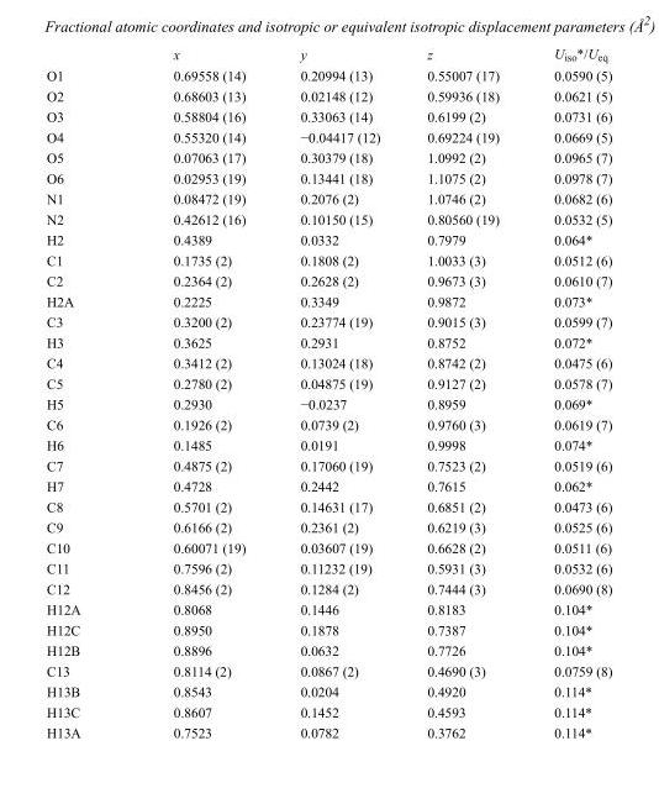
<table><thead><tr><td></td><td>x</td><td>y</td><td>z</td><td>U<sub>iso</sub>*/U<sub>eq</sub></td></tr></thead><tbody><tr><td>O1</td><td>0.69558 (14)</td><td>0.20994 (13)</td><td>0.55007 (17)</td><td>0.0590 (5)</td></tr><tr><td>O2</td><td>0.68603 (13)</td><td>0.02148 (12)</td><td>0.59936 (18)</td><td>0.0621 (5)</td></tr><tr><td>O3</td><td>0.58804 (16)</td><td>0.33063 (14)</td><td>0.6199 (2)</td><td>0.0731 (6)</td></tr><tr><td>O4</td><td>0.55320 (14)</td><td>−0.04417 (12)</td><td>0.69224 (19)</td><td>0.0669 (5)</td></tr><tr><td>O5</td><td>0.07063 (17)</td><td>0.30379 (18)</td><td>1.0992 (2)</td><td>0.0965 (7)</td></tr><tr><td>O6</td><td>0.02953 (19)</td><td>0.13441 (18)</td><td>1.1075 (2)</td><td>0.0978 (7)</td></tr><tr><td>N1</td><td>0.08472 (19)</td><td>0.2076 (2)</td><td>1.0746 (2)</td><td>0.0682 (6)</td></tr><tr><td>N2</td><td>0.42612 (16)</td><td>0.10150 (15)</td><td>0.80560 (19)</td><td>0.0532 (5)</td></tr><tr><td>H2</td><td>0.4389</td><td>0.0332</td><td>0.7979</td><td>0.064*</td></tr><tr><td>C1</td><td>0.1735 (2)</td><td>0.1808 (2)</td><td>1.0033 (3)</td><td>0.0512 (6)</td></tr><tr><td>C2</td><td>0.2364 (2)</td><td>0.2628 (2)</td><td>0.9673 (3)</td><td>0.0610 (7)</td></tr><tr><td>H2A</td><td>0.2225</td><td>0.3349</td><td>0.9872</td><td>0.073*</td></tr><tr><td>C3</td><td>0.3200 (2)</td><td>0.23774 (19)</td><td>0.9015 (3)</td><td>0.0599 (7)</td></tr><tr><td>H3</td><td>0.3625</td><td>0.2931</td><td>0.8752</td><td>0.072*</td></tr><tr><td>C4</td><td>0.3412 (2)</td><td>0.13024 (18)</td><td>0.8742 (2)</td><td>0.0475 (6)</td></tr><tr><td>C5</td><td>0.2780 (2)</td><td>0.04875 (19)</td><td>0.9127 (2)</td><td>0.0578 (7)</td></tr><tr><td>H5</td><td>0.2930</td><td>−0.0237</td><td>0.8959</td><td>0.069*</td></tr><tr><td>C6</td><td>0.1926 (2)</td><td>0.0739 (2)</td><td>0.9760 (3)</td><td>0.0619 (7)</td></tr><tr><td>H6</td><td>0.1485</td><td>0.0191</td><td>0.9998</td><td>0.074*</td></tr><tr><td>C7</td><td>0.4875 (2)</td><td>0.17060 (19)</td><td>0.7523 (2)</td><td>0.0519 (6)</td></tr><tr><td>H7</td><td>0.4728</td><td>0.2442</td><td>0.7615</td><td>0.062*</td></tr><tr><td>C8</td><td>0.5701 (2)</td><td>0.14631 (17)</td><td>0.6851 (2)</td><td>0.0473 (6)</td></tr><tr><td>C9</td><td>0.6166 (2)</td><td>0.2361 (2)</td><td>0.6219 (3)</td><td>0.0525 (6)</td></tr><tr><td>C10</td><td>0.60071 (19)</td><td>0.03607 (19)</td><td>0.6628 (2)</td><td>0.0511 (6)</td></tr><tr><td>C11</td><td>0.7596 (2)</td><td>0.11232 (19)</td><td>0.5931 (3)</td><td>0.0532 (6)</td></tr><tr><td>C12</td><td>0.8456 (2)</td><td>0.1284 (2)</td><td>0.7444 (3)</td><td>0.0690 (8)</td></tr><tr><td>H12A</td><td>0.8068</td><td>0.1446</td><td>0.8183</td><td>0.104*</td></tr><tr><td>H12C</td><td>0.8950</td><td>0.1878</td><td>0.7387</td><td>0.104*</td></tr><tr><td>H12B</td><td>0.8896</td><td>0.0632</td><td>0.7726</td><td>0.104*</td></tr><tr><td>C13</td><td>0.8114 (2)</td><td>0.0867 (2)</td><td>0.4690 (3)</td><td>0.0759 (8)</td></tr><tr><td>H13B</td><td>0.8543</td><td>0.0204</td><td>0.4920</td><td>0.114*</td></tr><tr><td>H13C</td><td>0.8607</td><td>0.1452</td><td>0.4593</td><td>0.114*</td></tr><tr><td>H13A</td><td>0.7523</td><td>0.0782</td><td>0.3762</td><td>0.114*</td></tr></tbody></table>